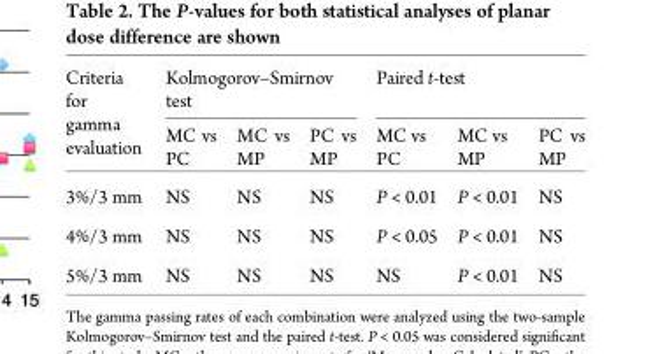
<table><thead><tr><td rowspan="2">Criteria for gamma evaluation</td><td colspan="3">Kolmogorov–Smirnov test</td><td colspan="3">Paired t-test</td></tr><tr><td>MC vs PC</td><td>MC vs MP</td><td>PC vs MP</td><td>MC vs PC</td><td>MC vs MP</td><td>PC vs MP</td></tr></thead><tbody><tr><td>3%/3 mm</td><td>NS</td><td>NS</td><td>NS</td><td>P &lt; 0.01</td><td>P &lt; 0.01</td><td>NS</td></tr><tr><td>4%/3 mm</td><td>NS</td><td>NS</td><td>NS</td><td>P &lt; 0.05</td><td>P &lt; 0.01</td><td>NS</td></tr><tr><td>5%/3 mm</td><td>NS</td><td>NS</td><td>NS</td><td>NS</td><td>P &lt; 0.01</td><td>NS</td></tr></tbody></table>